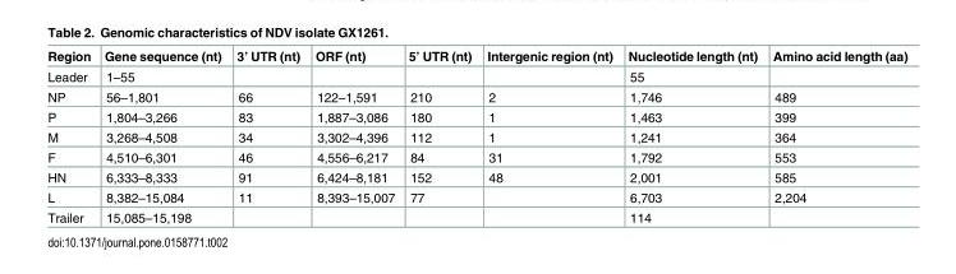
<table><thead><tr><td>Region</td><td>Gene sequence (nt)</td><td>3’ UTR (nt)</td><td>ORF (nt)</td><td>5’ UTR (nt)</td><td>Intergenic region (nt)</td><td>Nucleotide length (nt)</td><td>Amino acid length (aa)</td></tr></thead><tbody><tr><td>Leader</td><td>1–55</td><td></td><td></td><td></td><td></td><td>55</td><td></td></tr><tr><td>NP</td><td>56–1,801</td><td>66</td><td>122–1,591</td><td>210</td><td>2</td><td>1,746</td><td>489</td></tr><tr><td>P</td><td>1,804–3,266</td><td>83</td><td>1,887–3,086</td><td>180</td><td>1</td><td>1,463</td><td>399</td></tr><tr><td>M</td><td>3,268–4,508</td><td>34</td><td>3,302–4,396</td><td>112</td><td>1</td><td>1,241</td><td>364</td></tr><tr><td>F</td><td>4,510–6,301</td><td>46</td><td>4,556–6,217</td><td>84</td><td>31</td><td>1,792</td><td>553</td></tr><tr><td>HN</td><td>6,333–8,333</td><td>91</td><td>6,424–8,181</td><td>152</td><td>48</td><td>2,001</td><td>585</td></tr><tr><td>L</td><td>8,382–15,084</td><td>11</td><td>8,393–15,007</td><td>77</td><td></td><td>6,703</td><td>2,204</td></tr><tr><td>Trailer</td><td>15,085–15,198</td><td></td><td></td><td></td><td></td><td>114</td><td></td></tr></tbody></table>